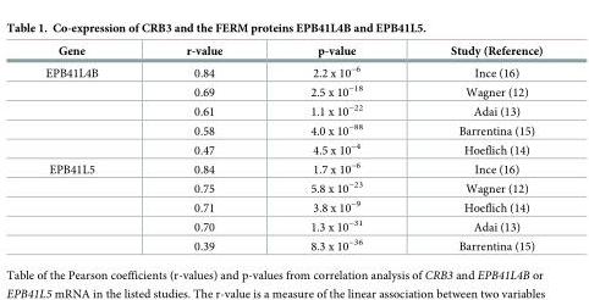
<table><thead><tr><td>Gene</td><td>r-value</td><td>p-value</td><td>Study (Reference)</td></tr></thead><tbody><tr><td rowspan="5">EPB41L4B</td><td>0.84</td><td>2.2 x 10<sup>−6</sup></td><td>Ince (16)</td></tr><tr><td>0.69</td><td>2.5 x 10<sup>−18</sup></td><td>Wagner (12)</td></tr><tr><td>0.61</td><td>1.1 x 10<sup>−22</sup></td><td>Adai (13)</td></tr><tr><td>0.58</td><td>4.0 x 10<sup>−88</sup></td><td>Barrentina (15)</td></tr><tr><td>0.47</td><td>4.5 x 10<sup>−4</sup></td><td>Hoeflich (14)</td></tr><tr><td rowspan="5">EPB41L5</td><td>0.84</td><td>1.7 x 10<sup>−6</sup></td><td>Ince (16)</td></tr><tr><td>0.75</td><td>5.8 x 10<sup>−23</sup></td><td>Wagner (12)</td></tr><tr><td>0.71</td><td>3.8 x 10<sup>−9</sup></td><td>Hoeflich (14)</td></tr><tr><td>0.70</td><td>1.3 x 10<sup>−31</sup></td><td>Adai (13)</td></tr><tr><td>0.39</td><td>8.3 x 10<sup>−36</sup></td><td>Barrentina (15)</td></tr></tbody></table>